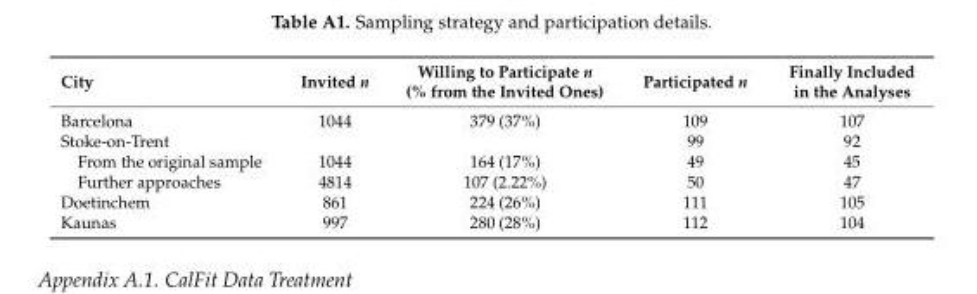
<table><thead><tr><td>City</td><td>Invited n</td><td>Willing to Participate n (% from the Invited Ones)</td><td>Participated n</td><td>Finally Included in the Analyses</td></tr></thead><tbody><tr><td>Barcelona</td><td>1044</td><td>379 (37%)</td><td>109</td><td>107</td></tr><tr><td>Stoke-on-Trent</td><td></td><td></td><td>99</td><td>92</td></tr><tr><td>From the original sample</td><td>1044</td><td>164 (17%)</td><td>49</td><td>45</td></tr><tr><td>Further approaches</td><td>4814</td><td>107 (2.22%)</td><td>50</td><td>47</td></tr><tr><td>Doetinchem</td><td>861</td><td>224 (26%)</td><td>111</td><td>105</td></tr><tr><td>Kaunas</td><td>997</td><td>280 (28%)</td><td>112</td><td>104</td></tr></tbody></table>